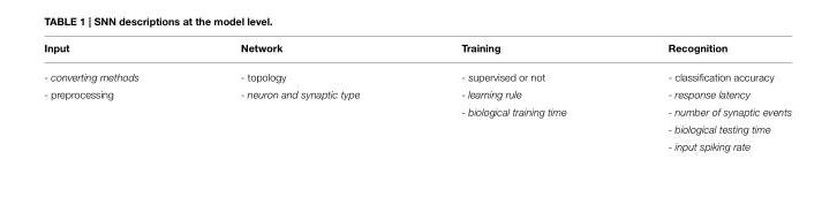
<table><thead><tr><td>Input</td><td>Network</td><td>Training</td><td>Recognition</td></tr></thead><tbody><tr><td>- converting methods</td><td>- topology</td><td>- supervised or not</td><td>- classification accuracy</td></tr><tr><td rowspan="4">- preprocessing</td><td>- neuron and synaptic type</td><td>- learning rule</td><td>- response latency</td></tr><tr><td></td><td>- biological training time</td><td>- number of synaptic events</td></tr><tr><td></td><td></td><td>- biological testing time</td></tr><tr><td></td><td></td><td>- input spiking rate</td></tr></tbody></table>